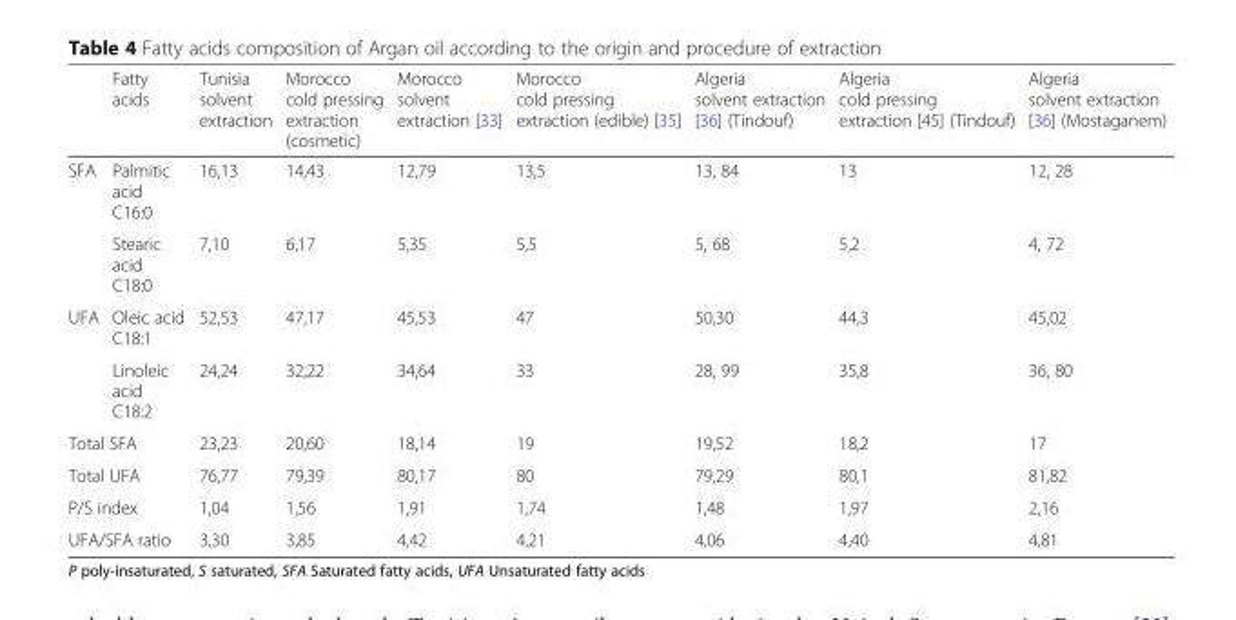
<table><thead><tr><td></td><td>Fatty acids</td><td>Tunisia solvent extraction</td><td>Morocco cold pressing extraction (cosmetic)</td><td>Morocco solvent extraction [33]</td><td>Morocco cold pressing extraction (edible) [35]</td><td>Algeria solvent extraction [36] (Tindouf)</td><td>Algeria cold pressing extraction [45] (Tindouf)</td><td>Algeria solvent extraction [36] (Mostaganem)</td></tr></thead><tbody><tr><td rowspan="2">SFA</td><td>Palmitic acid C16:0</td><td>16,13</td><td>14,43</td><td>12,79</td><td>13,5</td><td>13, 84</td><td>13</td><td>12, 28</td></tr><tr><td>Stearic acid C18:0</td><td>7,10</td><td>6,17</td><td>5,35</td><td>5,5</td><td>5, 68</td><td>5,2</td><td>4, 72</td></tr><tr><td rowspan="2">UFA</td><td>Oleic acid C18:1</td><td>52,53</td><td>47,17</td><td>45,53</td><td>47</td><td>50,30</td><td>44,3</td><td>45,02</td></tr><tr><td>Linoleic acid C18:2</td><td>24,24</td><td>32,22</td><td>34,64</td><td>33</td><td>28, 99</td><td>35,8</td><td>36, 80</td></tr><tr><td colspan="2">Total SFA</td><td>23,23</td><td>20,60</td><td>18,14</td><td>19</td><td>19,52</td><td>18,2</td><td>17</td></tr><tr><td colspan="2">Total UFA</td><td>76,77</td><td>79,39</td><td>80,17</td><td>80</td><td>79,29</td><td>80,1</td><td>81,82</td></tr><tr><td colspan="2">P/S index</td><td>1,04</td><td>1,56</td><td>1,91</td><td>1,74</td><td>1,48</td><td>1,97</td><td>2,16</td></tr><tr><td colspan="2">UFA/SFA ratio</td><td>3,30</td><td>3,85</td><td>4,42</td><td>4,21</td><td>4,06</td><td>4,40</td><td>4,81</td></tr></tbody></table>